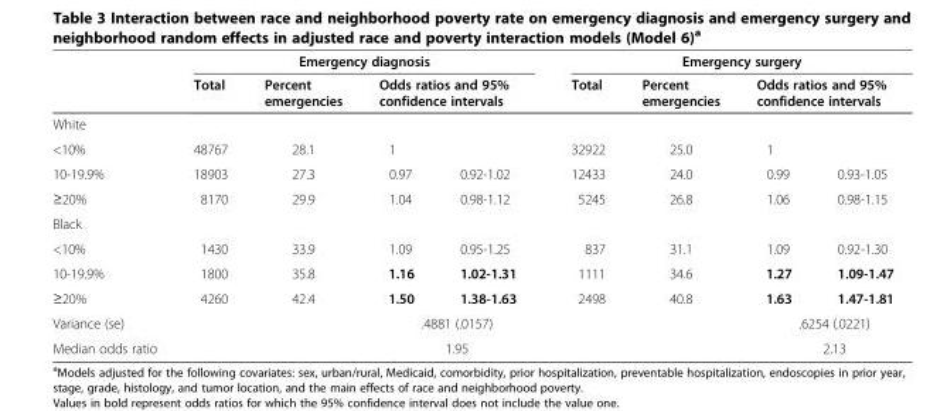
<table><thead><tr><td rowspan="3">White</td><td colspan="4">Emergency diagnosis</td><td colspan="4">Emergency surgery</td></tr><tr><td rowspan="2">Total</td><td rowspan="2">Percent emergencies</td><td colspan="2">Odds ratios and 95% confidence intervals</td><td rowspan="2">Total</td><td rowspan="2">Percent emergencies</td><td colspan="2">Odds ratios and 95% confidence intervals</td></tr><tr><td></td><td></td><td></td><td></td></tr></thead><tbody><tr><td>&lt;10%</td><td>48767</td><td>28.1</td><td>1</td><td></td><td>32922</td><td>25.0</td><td>1</td><td></td></tr><tr><td>10-19.9%</td><td>18903</td><td>27.3</td><td>0.97</td><td>0.92-1.02</td><td>12433</td><td>24.0</td><td>0.99</td><td>0.93-1.05</td></tr><tr><td>≥20%</td><td>8170</td><td>29.9</td><td>1.04</td><td>0.98-1.12</td><td>5245</td><td>26.8</td><td>1.06</td><td>0.98-1.15</td></tr><tr><td colspan="9">Black</td></tr><tr><td>&lt;10%</td><td>1430</td><td>33.9</td><td>1.09</td><td>0.95-1.25</td><td>837</td><td>31.1</td><td>1.09</td><td>0.92-1.30</td></tr><tr><td>10-19.9%</td><td>1800</td><td>35.8</td><td>1.16</td><td>1.02-1.31</td><td>1111</td><td>34.6</td><td>1.27</td><td>1.09-1.47</td></tr><tr><td>≥20%</td><td>4260</td><td>42.4</td><td>1.50</td><td>1.38-1.63</td><td>2498</td><td>40.8</td><td>1.63</td><td>1.47-1.81</td></tr><tr><td>Variance (se)</td><td></td><td></td><td colspan="2">.4881 (.0157)</td><td></td><td></td><td colspan="2">.6254 (.0221)</td></tr><tr><td>Median odds ratio</td><td></td><td></td><td colspan="2">1.95</td><td></td><td></td><td colspan="2">2.13</td></tr></tbody></table>